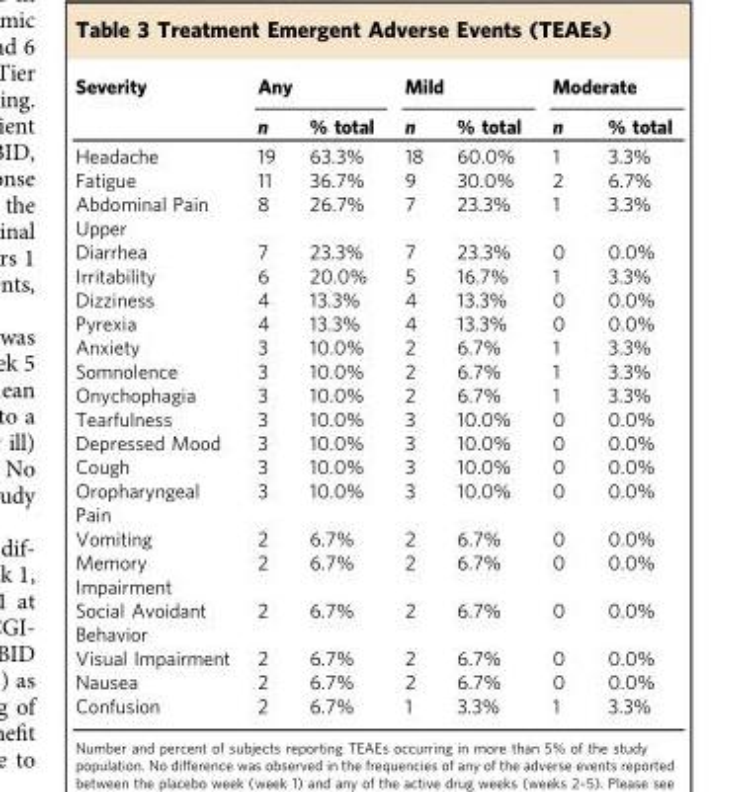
<table><thead><tr><td rowspan="2">Severity</td><td colspan="2">Any</td><td colspan="2">Mild</td><td colspan="2">Moderate</td></tr><tr><td>n</td><td>% total</td><td>n</td><td>% total</td><td>n</td><td>% total</td></tr></thead><tbody><tr><td>Headache</td><td>19</td><td>63.3%</td><td>18</td><td>60.0%</td><td>1</td><td>3.3%</td></tr><tr><td>Fatigue</td><td>11</td><td>36.7%</td><td>9</td><td>30.0%</td><td>2</td><td>6.7%</td></tr><tr><td>Abdominal Pain Upper</td><td>8</td><td>26.7%</td><td>7</td><td>23.3%</td><td>1</td><td>3.3%</td></tr><tr><td>Diarrhea</td><td>7</td><td>23.3%</td><td>7</td><td>23.3%</td><td>0</td><td>0.0%</td></tr><tr><td>Irritability</td><td>6</td><td>20.0%</td><td>5</td><td>16.7%</td><td>1</td><td>3.3%</td></tr><tr><td>Dizziness</td><td>4</td><td>13.3%</td><td>4</td><td>13.3%</td><td>0</td><td>0.0%</td></tr><tr><td>Pyrexia</td><td>4</td><td>13.3%</td><td>4</td><td>13.3%</td><td>0</td><td>0.0%</td></tr><tr><td>Anxiety</td><td>3</td><td>10.0%</td><td>2</td><td>6.7%</td><td>1</td><td>3.3%</td></tr><tr><td>Somnolence</td><td>3</td><td>10.0%</td><td>2</td><td>6.7%</td><td>1</td><td>3.3%</td></tr><tr><td>Onychophagia</td><td>3</td><td>10.0%</td><td>2</td><td>6.7%</td><td>1</td><td>3.3%</td></tr><tr><td>Tearfulness</td><td>3</td><td>10.0%</td><td>3</td><td>10.0%</td><td>0</td><td>0.0%</td></tr><tr><td>Depressed Mood</td><td>3</td><td>10.0%</td><td>3</td><td>10.0%</td><td>0</td><td>0.0%</td></tr><tr><td>Cough</td><td>3</td><td>10.0%</td><td>3</td><td>10.0%</td><td>0</td><td>0.0%</td></tr><tr><td>Oropharyngeal Pain</td><td>3</td><td>10.0%</td><td>3</td><td>10.0%</td><td>0</td><td>0.0%</td></tr><tr><td>Vomiting</td><td>2</td><td>6.7%</td><td>2</td><td>6.7%</td><td>0</td><td>0.0%</td></tr><tr><td>Memory Impairment</td><td>2</td><td>6.7%</td><td>2</td><td>6.7%</td><td>0</td><td>0.0%</td></tr><tr><td>Social Avoidant Behavior</td><td>2</td><td>6.7%</td><td>2</td><td>6.7%</td><td>0</td><td>0.0%</td></tr><tr><td>Visual Impairment</td><td>2</td><td>6.7%</td><td>2</td><td>6.7%</td><td>0</td><td>0.0%</td></tr><tr><td>Nausea</td><td>2</td><td>6.7%</td><td>2</td><td>6.7%</td><td>0</td><td>0.0%</td></tr><tr><td>Confusion</td><td>2</td><td>6.7%</td><td>1</td><td>3.3%</td><td>1</td><td>3.3%</td></tr></tbody></table>